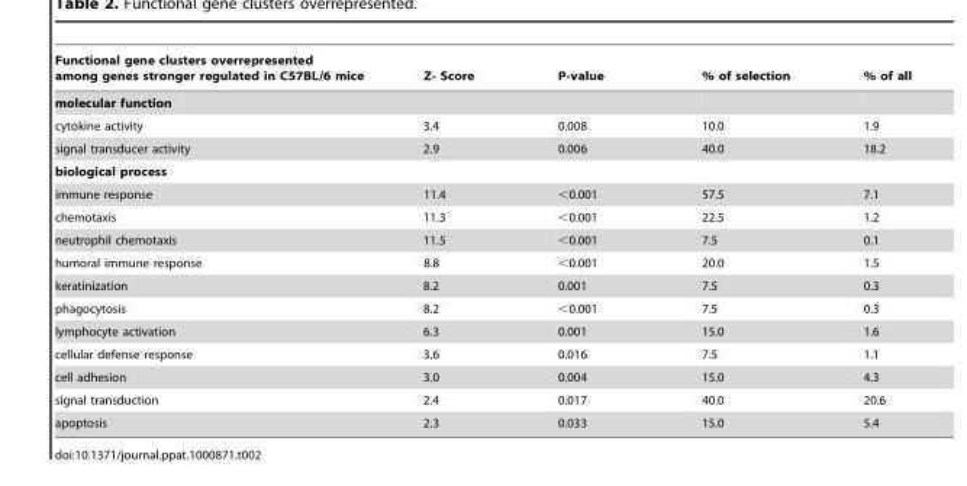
<table><thead><tr><td>Functional gene clusters overrepresented among genes stronger regulated in C57BL/6 mice</td><td>Z- Score</td><td>P-value</td><td>% of selection</td><td>% of all</td></tr></thead><tbody><tr><td colspan="5">molecular function</td></tr><tr><td>cytokine activity</td><td>3.4</td><td>0.008</td><td>10.0</td><td>1.9</td></tr><tr><td>signal transducer activity</td><td>2.9</td><td>0.006</td><td>40.0</td><td>18.2</td></tr><tr><td colspan="5">biological process</td></tr><tr><td>immune response</td><td>11.4</td><td>&lt;0.001</td><td>57.5</td><td>7.1</td></tr><tr><td>chemotaxis</td><td>11.3</td><td>&lt;0.001</td><td>22.5</td><td>1.2</td></tr><tr><td>neutrophil chemotaxis</td><td>11.5</td><td>&lt;0.001</td><td>7.5</td><td>0.1</td></tr><tr><td>humoral immune response</td><td>8.8</td><td>&lt;0.001</td><td>20.0</td><td>1.5</td></tr><tr><td>keratinization</td><td>8.2</td><td>0.001</td><td>7.5</td><td>0.3</td></tr><tr><td>phagocytosis</td><td>8.2</td><td>&lt;0.001</td><td>7.5</td><td>0.3</td></tr><tr><td>lymphocyte activation</td><td>6.3</td><td>0.001</td><td>15.0</td><td>1.6</td></tr><tr><td>cellular defense response</td><td>3.6</td><td>0.016</td><td>7.5</td><td>1.1</td></tr><tr><td>cell adhesion</td><td>3.0</td><td>0.004</td><td>15.0</td><td>4.3</td></tr><tr><td>signal transduction</td><td>2.4</td><td>0.017</td><td>40.0</td><td>20.6</td></tr><tr><td>apoptosis</td><td>2.3</td><td>0.033</td><td>15.0</td><td>5.4</td></tr></tbody></table>